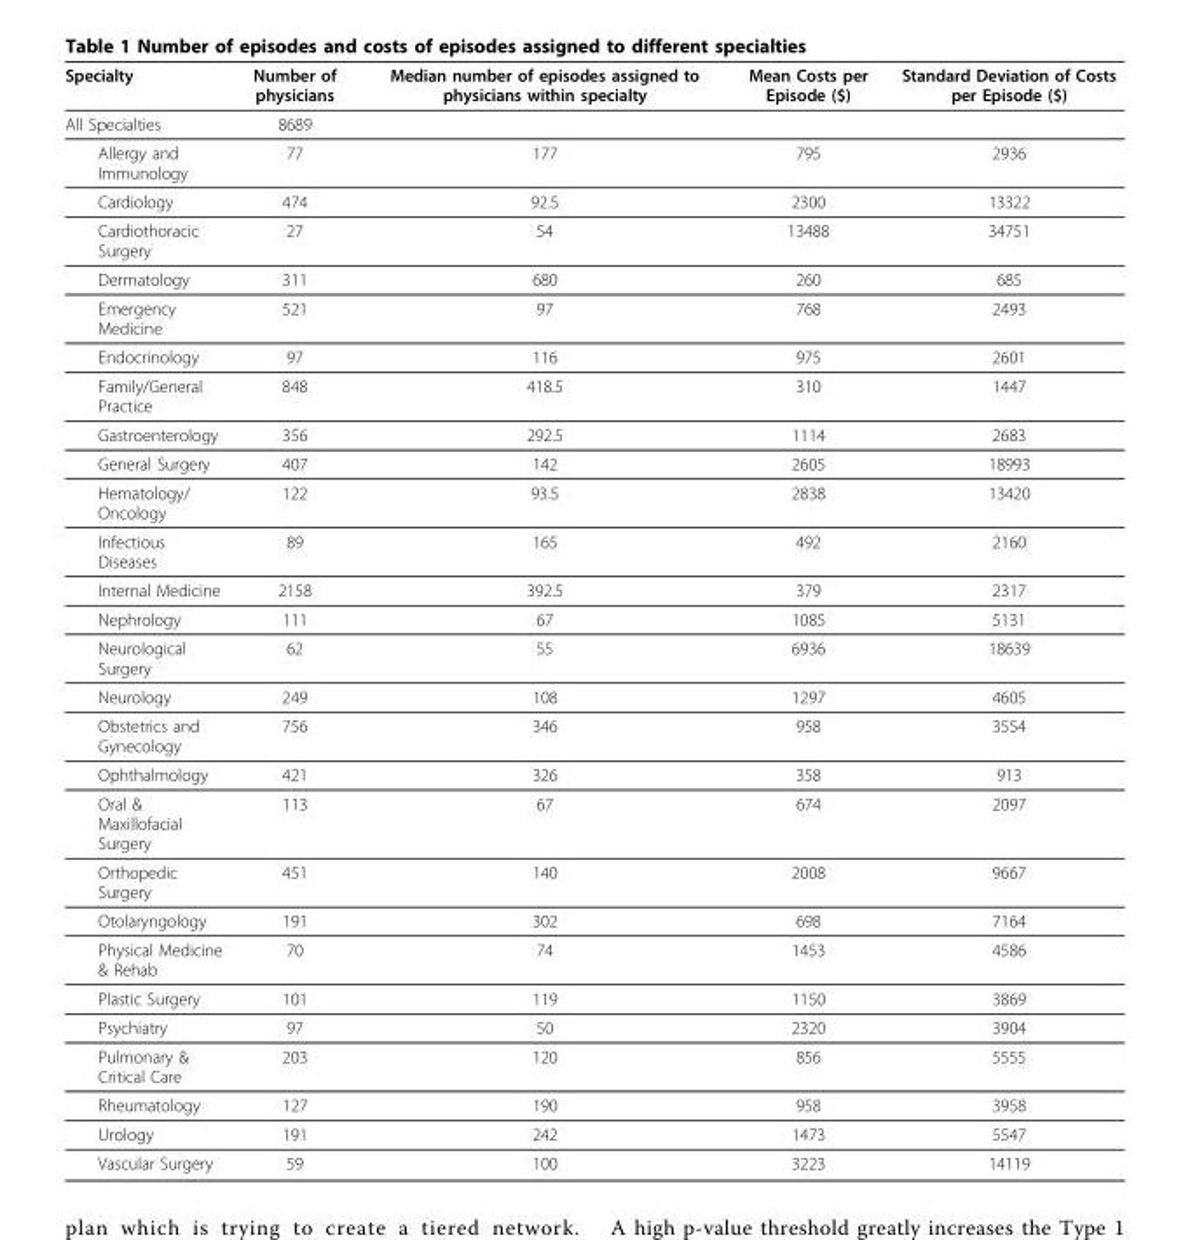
<table><thead><tr><td>Specialty</td><td>Number of physicians</td><td>Median number of episodes assigned to physicians within specialty</td><td>Mean Costs per Episode ($)</td><td>Standard Deviation of Costs per Episode ($)</td></tr></thead><tbody><tr><td>All Specialties</td><td>8689</td><td></td><td></td><td></td></tr><tr><td>Allergy and Immunology</td><td>77</td><td>177</td><td>795</td><td>2936</td></tr><tr><td>Cardiology</td><td>474</td><td>92.5</td><td>2300</td><td>13322</td></tr><tr><td>Cardiothoracic Surgery</td><td>27</td><td>54</td><td>13488</td><td>34751</td></tr><tr><td>Dermatology</td><td>311</td><td>680</td><td>260</td><td>685</td></tr><tr><td>Emergency Medicine</td><td>521</td><td>97</td><td>768</td><td>2493</td></tr><tr><td>Endocrinology</td><td>97</td><td>116</td><td>975</td><td>2601</td></tr><tr><td>Family/General Practice</td><td>848</td><td>418.5</td><td>310</td><td>1447</td></tr><tr><td>Gastroenterology</td><td>356</td><td>292.5</td><td>1114</td><td>2683</td></tr><tr><td>General Surgery</td><td>407</td><td>142</td><td>2605</td><td>18993</td></tr><tr><td>Hematology/ Oncology</td><td>122</td><td>93.5</td><td>2838</td><td>13420</td></tr><tr><td>Infectious Diseases</td><td>89</td><td>165</td><td>492</td><td>2160</td></tr><tr><td>Internal Medicine</td><td>2158</td><td>392.5</td><td>379</td><td>2317</td></tr><tr><td>Nephrology</td><td>111</td><td>67</td><td>1085</td><td>5131</td></tr><tr><td>Neurological Surgery</td><td>62</td><td>55</td><td>6936</td><td>18639</td></tr><tr><td>Neurology</td><td>249</td><td>108</td><td>1297</td><td>4605</td></tr><tr><td>Obstetrics and Gynecology</td><td>756</td><td>346</td><td>958</td><td>3554</td></tr><tr><td>Ophthalmology</td><td>421</td><td>326</td><td>358</td><td>913</td></tr><tr><td>Oral &amp; Maxillofacial Surgery</td><td>113</td><td>67</td><td>674</td><td>2097</td></tr><tr><td>Orthopedic Surgery</td><td>451</td><td>140</td><td>2008</td><td>9667</td></tr><tr><td>Otolaryngology</td><td>191</td><td>302</td><td>698</td><td>7164</td></tr><tr><td>Physical Medicine &amp; Rehab</td><td>70</td><td>74</td><td>1453</td><td>4586</td></tr><tr><td>Plastic Surgery</td><td>101</td><td>119</td><td>1150</td><td>3869</td></tr><tr><td>Psychiatry</td><td>97</td><td>50</td><td>2320</td><td>3904</td></tr><tr><td>Pulmonary &amp; Critical Care</td><td>203</td><td>120</td><td>856</td><td>5555</td></tr><tr><td>Rheumatology</td><td>127</td><td>190</td><td>958</td><td>3958</td></tr><tr><td>Urology</td><td>191</td><td>242</td><td>1473</td><td>5547</td></tr><tr><td>Vascular Surgery</td><td>59</td><td>100</td><td>3223</td><td>14119</td></tr></tbody></table>